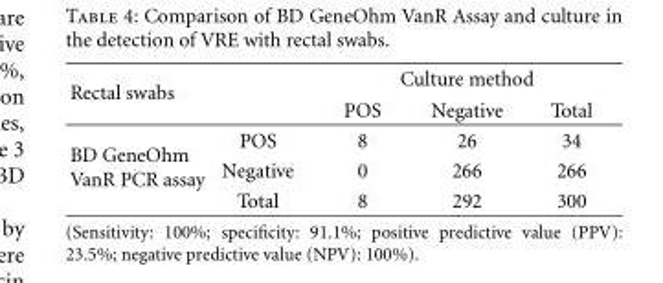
<table><thead><tr><td rowspan="2">Rectal swabs</td><td rowspan="2"></td><td colspan="3">Culture method</td></tr><tr><td>POS</td><td>Negative</td><td>Total</td></tr></thead><tbody><tr><td rowspan="3">BD GeneOhm VanR PCR assay</td><td>POS</td><td>8</td><td>26</td><td>34</td></tr><tr><td>Negative</td><td>0</td><td>266</td><td>266</td></tr><tr><td>Total</td><td>8</td><td>292</td><td>300</td></tr></tbody></table>